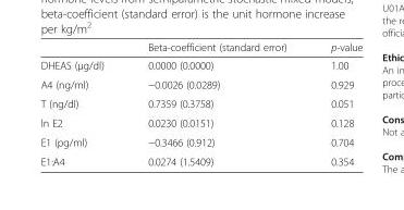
<table><thead><tr><td></td><td>Beta-coefficient (standard error)</td><td>p-value</td></tr></thead><tbody><tr><td>DHEAS (μg/dl)</td><td>0.0000 (0.0000)</td><td>1.00</td></tr><tr><td>A4 (ng/ml)</td><td>−0.0026 (0.0289)</td><td>0.929</td></tr><tr><td>T (ng/dl)</td><td>0.7359 (0.3758)</td><td>0.051</td></tr><tr><td>ln E2</td><td>0.0230 (0.0151)</td><td>0.128</td></tr><tr><td>E1 (pg/ml)</td><td>−0.3466 (0.912)</td><td>0.704</td></tr><tr><td>E1:A4</td><td>0.0274 (1.5409)</td><td>0.354</td></tr></tbody></table>